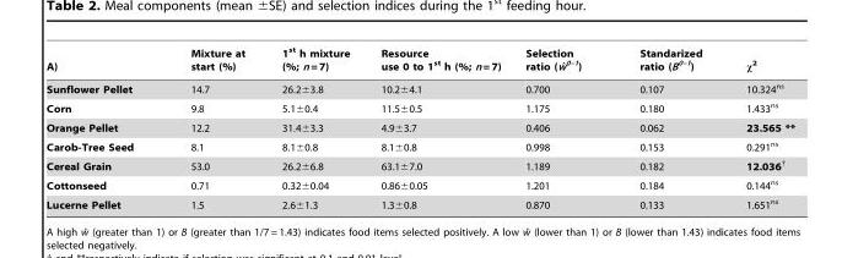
<table><thead><tr><td>A)</td><td>Mixture at start (%)</td><td>1<sup>st</sup> h mixture (%; n = 7)</td><td>Resource use 0 to 1<sup>st</sup> h (%; n = 7)</td><td>Selection ratio (wˆ 0–1)</td><td>Standarized ratio (B<sup>0–1</sup>)</td><td>κ<sup>2</sup></td></tr></thead><tbody><tr><td>Sunflower Pellet</td><td>14.7</td><td>26.2±3.8</td><td>10.2±4.1</td><td>0.700</td><td>0.107</td><td>10.324<sup>ns</sup></td></tr><tr><td>Corn</td><td>9.8</td><td>5.1±0.4</td><td>11.5±0.5</td><td>1.175</td><td>0.180</td><td>1.433<sup>ns</sup></td></tr><tr><td>Orange Pellet</td><td>12.2</td><td>31.4±3.3</td><td>4.9±3.7</td><td>0.406</td><td>0.062</td><td>23.565 **</td></tr><tr><td>Carob-Tree Seed</td><td>8.1</td><td>8.1±0.8</td><td>8.1±0.8</td><td>0.998</td><td>0.153</td><td>0.291<sup>ns</sup></td></tr><tr><td>Cereal Grain</td><td>53.0</td><td>26.2±6.8</td><td>63.1±7.0</td><td>1.189</td><td>0.182</td><td>12.036†</td></tr><tr><td>Cottonseed</td><td>0.71</td><td>0.32±0.04</td><td>0.86±0.05</td><td>1.201</td><td>0.184</td><td>0.144<sup>ns</sup></td></tr><tr><td>Lucerne Pellet</td><td>1.5</td><td>2.6±1.3</td><td>1.3±0.8</td><td>0.870</td><td>0.133</td><td>1.651<sup>ns</sup></td></tr></tbody></table>